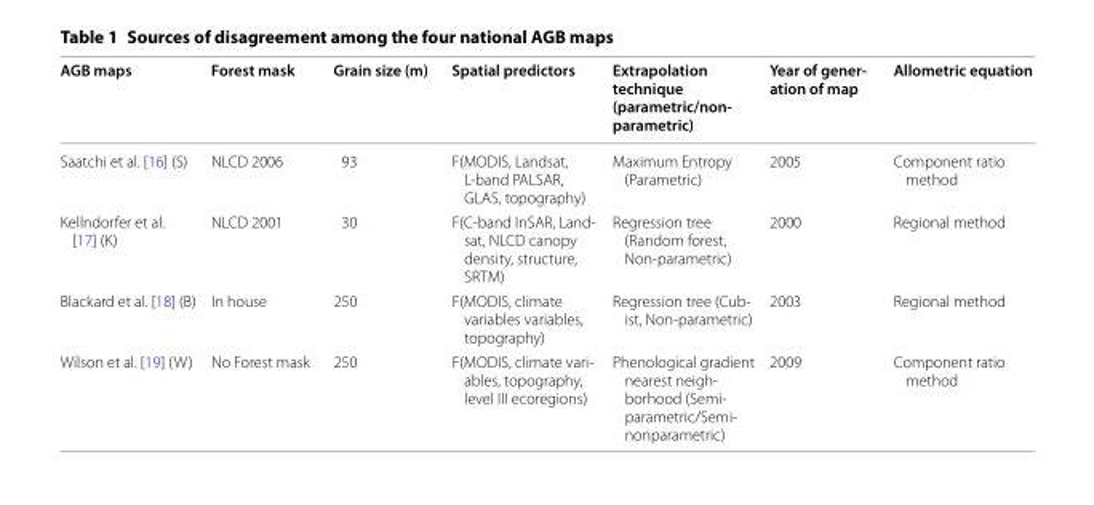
<table><thead><tr><td>AGB maps</td><td>Forest mask</td><td>Grain size (m)</td><td>Spatial predictors</td><td>Extrapolation technique (parametric/non‑ parametric)</td><td>Year of gener‑ ation of map</td><td>Allometric equation</td></tr></thead><tbody><tr><td>Saatchi et al. [16] (S)</td><td>NLCD 2006</td><td>93</td><td>F(MODIS, Landsat, L-band PALSAR, GLAS, topography)</td><td>Maximum Entropy (Parametric)</td><td>2005</td><td>Component ratio method</td></tr><tr><td>Kellndorfer et al. [17] (K)</td><td>NLCD 2001</td><td>30</td><td>F(C-band InSAR, Land- sat, NLCD canopy density, structure, SRTM)</td><td>Regression tree (Random forest, Non-parametric)</td><td>2000</td><td>Regional method</td></tr><tr><td>Blackard et al. [18] (B)</td><td>In house</td><td>250</td><td>F(MODIS, climate variables variables, topography)</td><td>Regression tree (Cub- ist, Non-parametric)</td><td>2003</td><td>Regional method</td></tr><tr><td>Wilson et al. [19] (W)</td><td>No Forest mask</td><td>250</td><td>F(MODIS, climate vari- ables, topography, level III ecoregions)</td><td>Phenological gradient nearest neigh- borhood (Semi- parametric/Semi- nonparametric)</td><td>2009</td><td>Component ratio method</td></tr></tbody></table>